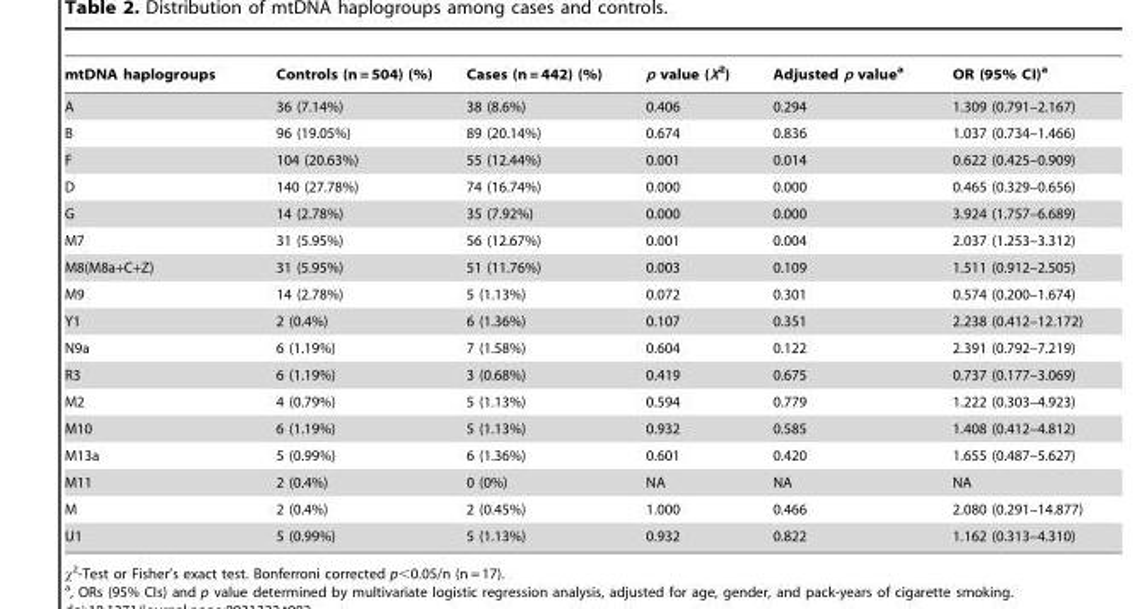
<table><thead><tr><td>mtDNA haplogroups</td><td>Controls (n = 504) (%)</td><td>Cases (n = 442) (%)</td><td>p value (X<sup>2</sup>)</td><td>Adjusted p value<sup>a</sup></td><td>OR (95% CI)<sup>a</sup></td></tr></thead><tbody><tr><td>A</td><td>36 (7.14%)</td><td>38 (8.6%)</td><td>0.406</td><td>0.294</td><td>1.309 (0.791–2.167)</td></tr><tr><td>B</td><td>96 (19.05%)</td><td>89 (20.14%)</td><td>0.674</td><td>0.836</td><td>1.037 (0.734–1.466)</td></tr><tr><td>F</td><td>104 (20.63%)</td><td>55 (12.44%)</td><td>0.001</td><td>0.014</td><td>0.622 (0.425–0.909)</td></tr><tr><td>D</td><td>140 (27.78%)</td><td>74 (16.74%)</td><td>0.000</td><td>0.000</td><td>0.465 (0.329–0.656)</td></tr><tr><td>G</td><td>14 (2.78%)</td><td>35 (7.92%)</td><td>0.000</td><td>0.000</td><td>3.924 (1.757–6.689)</td></tr><tr><td>M7</td><td>31 (5.95%)</td><td>56 (12.67%)</td><td>0.001</td><td>0.004</td><td>2.037 (1.253–3.312)</td></tr><tr><td>M8(M8a+C+Z)</td><td>31 (5.95%)</td><td>51 (11.76%)</td><td>0.003</td><td>0.109</td><td>1.511 (0.912–2.505)</td></tr><tr><td>M9</td><td>14 (2.78%)</td><td>5 (1.13%)</td><td>0.072</td><td>0.301</td><td>0.574 (0.200–1.674)</td></tr><tr><td>Y1</td><td>2 (0.4%)</td><td>6 (1.36%)</td><td>0.107</td><td>0.351</td><td>2.238 (0.412–12.172)</td></tr><tr><td>N9a</td><td>6 (1.19%)</td><td>7 (1.58%)</td><td>0.604</td><td>0.122</td><td>2.391 (0.792–7.219)</td></tr><tr><td>R3</td><td>6 (1.19%)</td><td>3 (0.68%)</td><td>0.419</td><td>0.675</td><td>0.737 (0.177–3.069)</td></tr><tr><td>M2</td><td>4 (0.79%)</td><td>5 (1.13%)</td><td>0.594</td><td>0.779</td><td>1.222 (0.303–4.923)</td></tr><tr><td>M10</td><td>6 (1.19%)</td><td>5 (1.13%)</td><td>0.932</td><td>0.585</td><td>1.408 (0.412–4.812)</td></tr><tr><td>M13a</td><td>5 (0.99%)</td><td>6 (1.36%)</td><td>0.601</td><td>0.420</td><td>1.655 (0.487–5.627)</td></tr><tr><td>M11</td><td>2 (0.4%)</td><td>0 (0%)</td><td>NA</td><td>NA</td><td>NA</td></tr><tr><td>M</td><td>2 (0.4%)</td><td>2 (0.45%)</td><td>1.000</td><td>0.466</td><td>2.080 (0.291–14.877)</td></tr><tr><td>U1</td><td>5 (0.99%)</td><td>5 (1.13%)</td><td>0.932</td><td>0.822</td><td>1.162 (0.313–4.310)</td></tr></tbody></table>